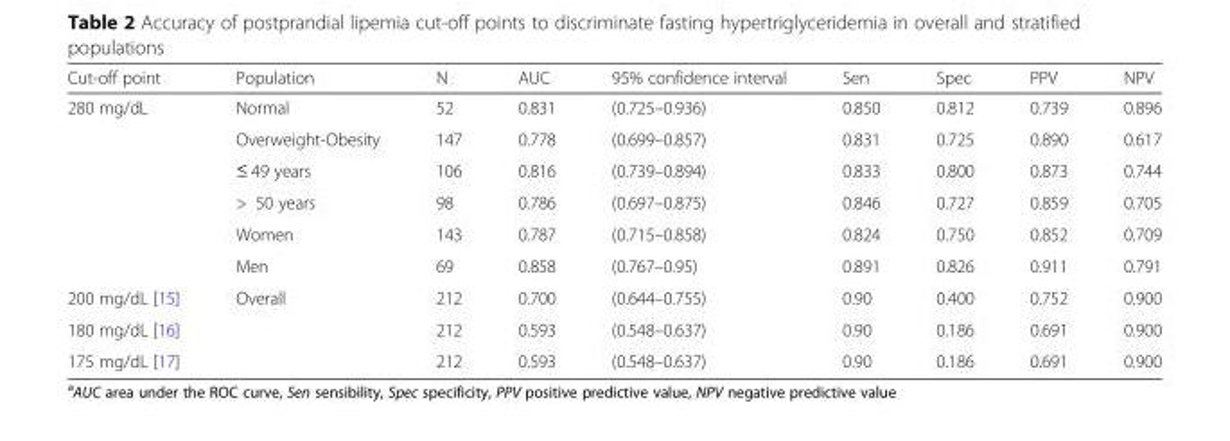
<table><thead><tr><td>Cut-off point</td><td>Population</td><td>N</td><td>AUC</td><td>95% confidence interval</td><td>Sen</td><td>Spec</td><td>PPV</td><td>NPV</td></tr></thead><tbody><tr><td rowspan="6">280 mg/dL</td><td>Normal</td><td>52</td><td>0.831</td><td>(0.725–0.936)</td><td>0.850</td><td>0.812</td><td>0.739</td><td>0.896</td></tr><tr><td>Overweight-Obesity</td><td>147</td><td>0.778</td><td>(0.699–0.857)</td><td>0.831</td><td>0.725</td><td>0.890</td><td>0.617</td></tr><tr><td>≤ 49 years</td><td>106</td><td>0.816</td><td>(0.739–0.894)</td><td>0.833</td><td>0.800</td><td>0.873</td><td>0.744</td></tr><tr><td>&gt; 50 years</td><td>98</td><td>0.786</td><td>(0.697–0.875)</td><td>0.846</td><td>0.727</td><td>0.859</td><td>0.705</td></tr><tr><td>Women</td><td>143</td><td>0.787</td><td>(0.715–0.858)</td><td>0.824</td><td>0.750</td><td>0.852</td><td>0.709</td></tr><tr><td>Men</td><td>69</td><td>0.858</td><td>(0.767–0.95)</td><td>0.891</td><td>0.826</td><td>0.911</td><td>0.791</td></tr><tr><td>200 mg/dL [15]</td><td rowspan="3">Overall</td><td>212</td><td>0.700</td><td>(0.644–0.755)</td><td>0.90</td><td>0.400</td><td>0.752</td><td>0.900</td></tr><tr><td>180 mg/dL [16]</td><td>212</td><td>0.593</td><td>(0.548–0.637)</td><td>0.90</td><td>0.186</td><td>0.691</td><td>0.900</td></tr><tr><td>175 mg/dL [17]</td><td>212</td><td>0.593</td><td>(0.548–0.637)</td><td>0.90</td><td>0.186</td><td>0.691</td><td>0.900</td></tr></tbody></table>